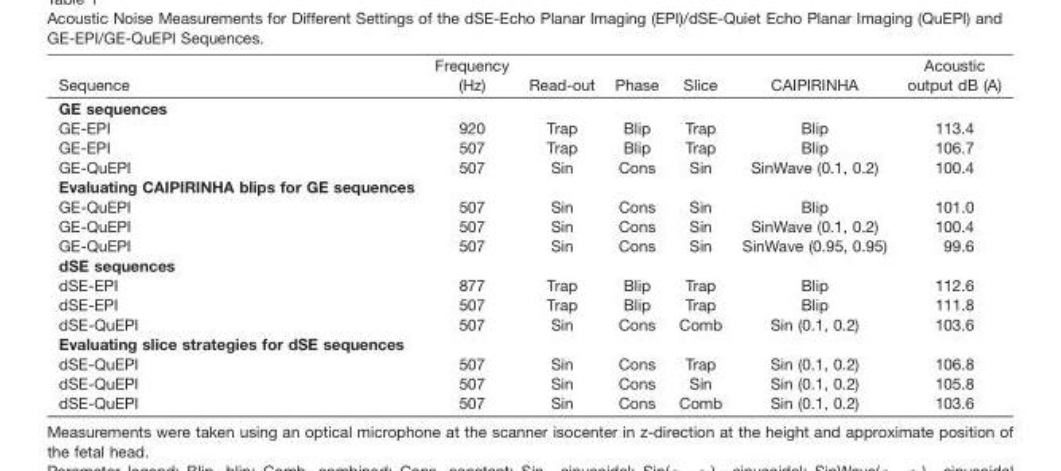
<table><thead><tr><td>Sequence</td><td>Frequency (Hz)</td><td>Read-out</td><td>Phase</td><td>Slice</td><td>CAIPIRINHA</td><td>Acoustic output dB (A)</td></tr></thead><tbody><tr><td colspan="7">GE sequences</td></tr><tr><td>GE-EPI</td><td>920</td><td>Trap</td><td>Blip</td><td>Trap</td><td>Blip</td><td>113.4</td></tr><tr><td>GE-EPI</td><td>507</td><td>Trap</td><td>Blip</td><td>Trap</td><td>Blip</td><td>106.7</td></tr><tr><td>GE-QuEPI</td><td>507</td><td>Sin</td><td>Cons</td><td>Sin</td><td>SinWave (0.1, 0.2)</td><td>100.4</td></tr><tr><td colspan="7">Evaluating CAIPIRINHA blips for GE sequences</td></tr><tr><td>GE-QuEPI</td><td>507</td><td>Sin</td><td>Cons</td><td>Sin</td><td>Blip</td><td>101.0</td></tr><tr><td>GE-QuEPI</td><td>507</td><td>Sin</td><td>Cons</td><td>Sin</td><td>SinWave (0.1, 0.2)</td><td>100.4</td></tr><tr><td>GE-QuEPI</td><td>507</td><td>Sin</td><td>Cons</td><td>Sin</td><td>SinWave (0.95, 0.95)</td><td>99.6</td></tr><tr><td colspan="7">dSE sequences</td></tr><tr><td>dSE-EPI</td><td>877</td><td>Trap</td><td>Blip</td><td>Trap</td><td>Blip</td><td>112.6</td></tr><tr><td>dSE-EPI</td><td>507</td><td>Trap</td><td>Blip</td><td>Trap</td><td>Blip</td><td>111.8</td></tr><tr><td>dSE-QuEPI</td><td>507</td><td>Sin</td><td>Cons</td><td>Comb</td><td>Sin (0.1, 0.2)</td><td>103.6</td></tr><tr><td colspan="7">Evaluating slice strategies for dSE sequences</td></tr><tr><td>dSE-QuEPI</td><td>507</td><td>Sin</td><td>Cons</td><td>Trap</td><td>Sin (0.1, 0.2)</td><td>106.8</td></tr><tr><td>dSE-QuEPI</td><td>507</td><td>Sin</td><td>Cons</td><td>Sin</td><td>Sin (0.1, 0.2)</td><td>105.8</td></tr><tr><td>dSE-QuEPI</td><td>507</td><td>Sin</td><td>Cons</td><td>Comb</td><td>Sin (0.1, 0.2)</td><td>103.6</td></tr></tbody></table>